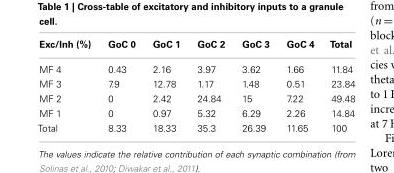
<table><thead><tr><td>Exc/Inh (%)</td><td>GoC 0</td><td>GoC 1</td><td>GoC 2</td><td>GoC 3</td><td>GoC 4</td><td>Total</td></tr></thead><tbody><tr><td>MF 4</td><td>0.43</td><td>2.16</td><td>3.97</td><td>3.62</td><td>1.66</td><td>11.84</td></tr><tr><td>MF 3</td><td>7.9</td><td>12.78</td><td>1.17</td><td>1.48</td><td>0.51</td><td>23.84</td></tr><tr><td>MF 2</td><td>0</td><td>2.42</td><td>24.84</td><td>15</td><td>7.22</td><td>49.48</td></tr><tr><td>MF 1</td><td>0</td><td>0.97</td><td>5.32</td><td>6.29</td><td>2.26</td><td>14.84</td></tr><tr><td>Total</td><td>8.33</td><td>18.33</td><td>35.3</td><td>26.39</td><td>11.65</td><td>100</td></tr></tbody></table>